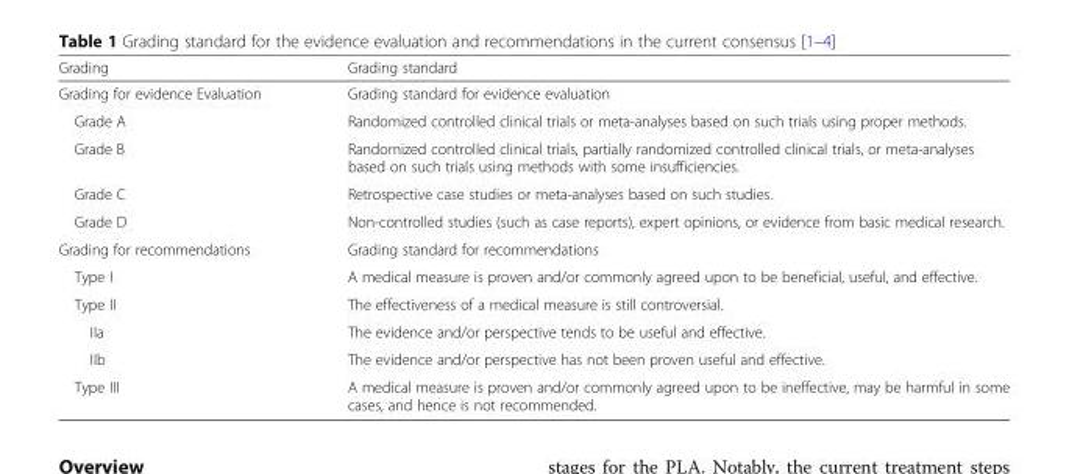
<table><thead><tr><td>Grading</td><td>Grading standard</td></tr></thead><tbody><tr><td>Grading for evidence Evaluation</td><td>Grading standard for evidence evaluation</td></tr><tr><td>Grade A</td><td>Randomized controlled clinical trials or meta-analyses based on such trials using proper methods.</td></tr><tr><td>Grade B</td><td>Randomized controlled clinical trials, partially randomized controlled clinical trials, or meta-analyses based on such trials using methods with some insufficiencies.</td></tr><tr><td>Grade C</td><td>Retrospective case studies or meta-analyses based on such studies.</td></tr><tr><td>Grade D</td><td>Non-controlled studies (such as case reports), expert opinions, or evidence from basic medical research.</td></tr><tr><td>Grading for recommendations</td><td>Grading standard for recommendations</td></tr><tr><td>Type I</td><td>A medical measure is proven and/or commonly agreed upon to be beneficial, useful, and effective.</td></tr><tr><td>Type II</td><td>The effectiveness of a medical measure is still controversial.</td></tr><tr><td>IIa</td><td>The evidence and/or perspective tends to be useful and effective.</td></tr><tr><td>IIb</td><td>The evidence and/or perspective has not been proven useful and effective.</td></tr><tr><td>Type III</td><td>A medical measure is proven and/or commonly agreed upon to be ineffective, may be harmful in some cases, and hence is not recommended.</td></tr></tbody></table>